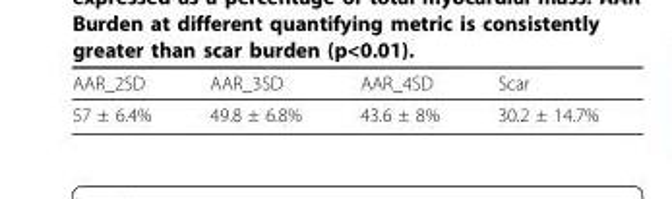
<table><thead><tr><td>AAR_2SD</td><td>AAR_3SD</td><td>AAR_4SD</td><td>Scar</td></tr></thead><tbody><tr><td>57 ± 6.4%</td><td>49.8 ± 6.8%</td><td>43.6 ± 8%</td><td>30.2 ± 14.7%</td></tr></tbody></table>